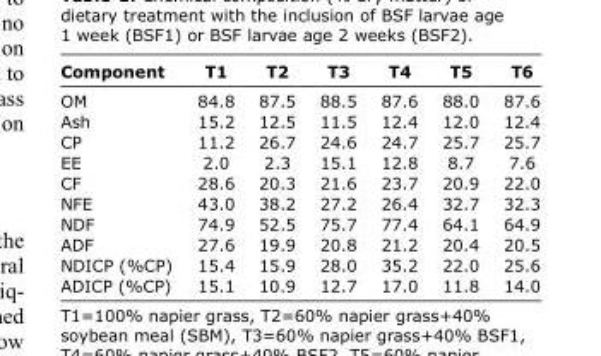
<table><thead><tr><td>Component</td><td>T1</td><td>T2</td><td>T3</td><td>T4</td><td>T5</td><td>T6</td></tr></thead><tbody><tr><td>OM</td><td>84.8</td><td>87.5</td><td>88.5</td><td>87.6</td><td>88.0</td><td>87.6</td></tr><tr><td>Ash</td><td>15.2</td><td>12.5</td><td>11.5</td><td>12.4</td><td>12.0</td><td>12.4</td></tr><tr><td>CP</td><td>11.2</td><td>26.7</td><td>24.6</td><td>24.7</td><td>25.7</td><td>25.7</td></tr><tr><td>EE</td><td>2.0</td><td>2.3</td><td>15.1</td><td>12.8</td><td>8.7</td><td>7.6</td></tr><tr><td>CF</td><td>28.6</td><td>20.3</td><td>21.6</td><td>23.7</td><td>20.9</td><td>22.0</td></tr><tr><td>NFE</td><td>43.0</td><td>38.2</td><td>27.2</td><td>26.4</td><td>32.7</td><td>32.3</td></tr><tr><td>NDF</td><td>74.9</td><td>52.5</td><td>75.7</td><td>77.4</td><td>64.1</td><td>64.9</td></tr><tr><td>ADF</td><td>27.6</td><td>19.9</td><td>20.8</td><td>21.2</td><td>20.4</td><td>20.5</td></tr><tr><td>NDICP (%CP)</td><td>15.4</td><td>15.9</td><td>28.0</td><td>35.2</td><td>22.0</td><td>25.6</td></tr><tr><td>ADICP (%CP)</td><td>15.1</td><td>10.9</td><td>12.7</td><td>17.0</td><td>11.8</td><td>14.0</td></tr></tbody></table>